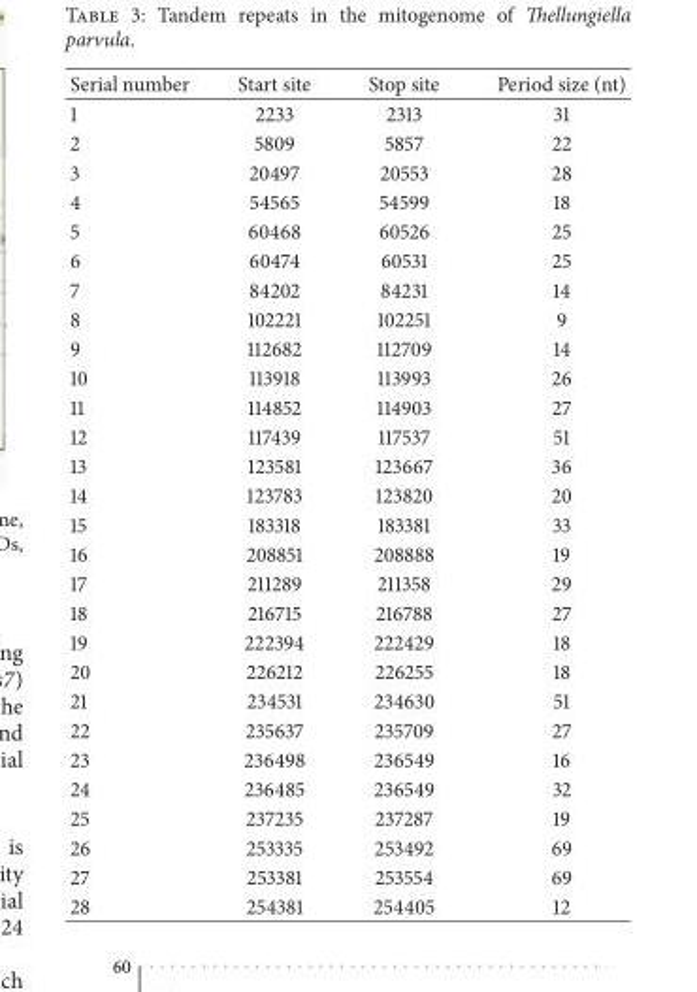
<table><thead><tr><td>Serial number</td><td>Start site</td><td>Stop site</td><td>Period size (nt)</td></tr></thead><tbody><tr><td>1</td><td>2233</td><td>2313</td><td>31</td></tr><tr><td>2</td><td>5809</td><td>5857</td><td>22</td></tr><tr><td>3</td><td>20497</td><td>20553</td><td>28</td></tr><tr><td>4</td><td>54565</td><td>54599</td><td>18</td></tr><tr><td>5</td><td>60468</td><td>60526</td><td>25</td></tr><tr><td>6</td><td>60474</td><td>60531</td><td>25</td></tr><tr><td>7</td><td>84202</td><td>84231</td><td>14</td></tr><tr><td>8</td><td>102221</td><td>102251</td><td>9</td></tr><tr><td>9</td><td>112682</td><td>112709</td><td>14</td></tr><tr><td>10</td><td>113918</td><td>113993</td><td>26</td></tr><tr><td>11</td><td>114852</td><td>114903</td><td>27</td></tr><tr><td>12</td><td>117439</td><td>117537</td><td>51</td></tr><tr><td>13</td><td>123581</td><td>123667</td><td>36</td></tr><tr><td>14</td><td>123783</td><td>123820</td><td>20</td></tr><tr><td>15</td><td>183318</td><td>183381</td><td>33</td></tr><tr><td>16</td><td>208851</td><td>208888</td><td>19</td></tr><tr><td>17</td><td>211289</td><td>211358</td><td>29</td></tr><tr><td>18</td><td>216715</td><td>216788</td><td>27</td></tr><tr><td>19</td><td>222394</td><td>222429</td><td>18</td></tr><tr><td>20</td><td>226212</td><td>226255</td><td>18</td></tr><tr><td>21</td><td>234531</td><td>234630</td><td>51</td></tr><tr><td>22</td><td>235637</td><td>235709</td><td>27</td></tr><tr><td>23</td><td>236498</td><td>236549</td><td>16</td></tr><tr><td>24</td><td>236485</td><td>236549</td><td>32</td></tr><tr><td>25</td><td>237235</td><td>237287</td><td>19</td></tr><tr><td>26</td><td>253335</td><td>253492</td><td>69</td></tr><tr><td>27</td><td>253381</td><td>253554</td><td>69</td></tr><tr><td>28</td><td>254381</td><td>254405</td><td>12</td></tr></tbody></table>